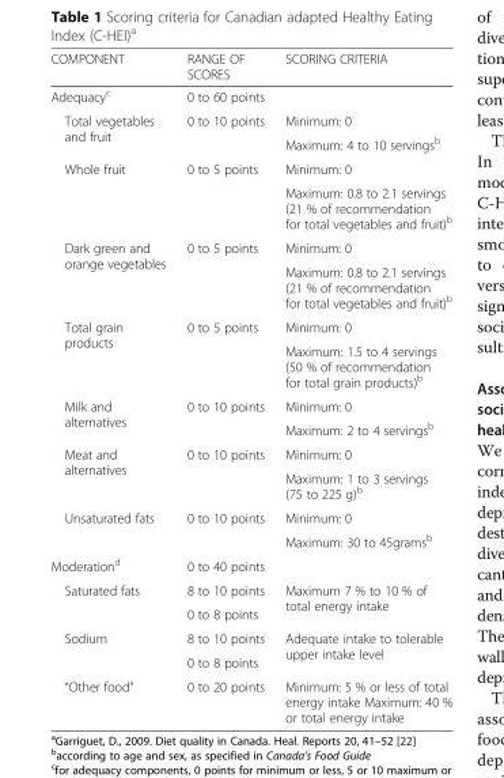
<table><thead><tr><td>COMPONENT</td><td>RANGE OF SCORES</td><td>SCORING CRITERIA</td></tr></thead><tbody><tr><td>Adequacy<sup>c</sup></td><td>0 to 60 points</td><td></td></tr><tr><td rowspan="2">Total vegetables and fruit</td><td rowspan="2">0 to 10 points</td><td>Minimum: 0</td></tr><tr><td>Maximum: 4 to 10 servings<sup>b</sup></td></tr><tr><td rowspan="2">Whole fruit</td><td rowspan="2">0 to 5 points</td><td>Minimum: 0</td></tr><tr><td>Maximum: 0.8 to 2.1 servings (21 % of recommendation for total vegetables and fruit)<sup>b</sup></td></tr><tr><td rowspan="2">Dark green and orange vegetables</td><td rowspan="2">0 to 5 points</td><td>Minimum: 0</td></tr><tr><td>Maximum: 0.8 to 2.1 servings (21 % of recommendation for total vegetables and fruit)<sup>b</sup></td></tr><tr><td rowspan="2">Total grain products</td><td rowspan="2">0 to 5 points</td><td>Minimum: 0</td></tr><tr><td>Maximum: 1.5 to 4 servings (50 % of recommendation for total grain products)<sup>b</sup></td></tr><tr><td rowspan="2">Milk and alternatives</td><td rowspan="2">0 to 10 points</td><td>Minimum: 0</td></tr><tr><td>Maximum: 2 to 4 servings<sup>b</sup></td></tr><tr><td rowspan="2">Meat and alternatives</td><td rowspan="2">0 to 10 points</td><td>Minimum: 0</td></tr><tr><td>Maximum: 1 to 3 servings (75 to 225 g)<sup>b</sup></td></tr><tr><td rowspan="2">Unsaturated fats</td><td rowspan="2">0 to 10 points</td><td>Minimum: 0</td></tr><tr><td>Maximum: 30 to 45grams<sup>b</sup></td></tr><tr><td>Moderation<sup>d</sup></td><td>0 to 40 points</td><td></td></tr><tr><td rowspan="2">Saturated fats</td><td>8 to 10 points</td><td rowspan="2">Maximum 7 % to 10 % of total energy intake</td></tr><tr><td>0 to 8 points</td></tr><tr><td rowspan="2">Sodium</td><td>8 to 10 points</td><td rowspan="2">Adequate intake to tolerable upper intake level</td></tr><tr><td>0 to 8 points</td></tr><tr><td>“Other food”</td><td>0 to 20 points</td><td>Minimum: 5 % or less of total energy intake Maximum: 40 % or total energy intake</td></tr></tbody></table>